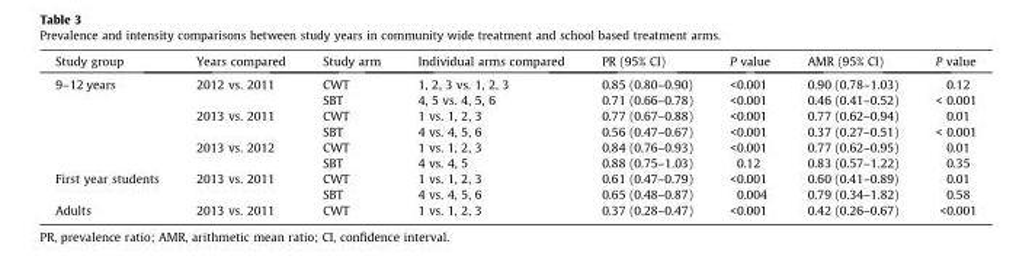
<table><thead><tr><td>Study group</td><td>Years compared</td><td>Study arm</td><td>Individual arms compared</td><td>PR (95% CI)</td><td>P value</td><td>AMR (95% CI)</td><td>P value</td></tr></thead><tbody><tr><td rowspan="6">9–12 years</td><td>2012 vs. 2011</td><td>CWT</td><td>1, 2, 3 vs. 1, 2, 3</td><td>0.85 (0.80–0.90)</td><td>&lt;0.001</td><td>0.90 (0.78–1.03)</td><td>0.12</td></tr><tr><td></td><td>SBT</td><td>4, 5 vs. 4, 5, 6</td><td>0.71 (0.66–0.78)</td><td>&lt;0.001</td><td>0.46 (0.41–0.52)</td><td>&lt; 0.001</td></tr><tr><td>2013 vs. 2011</td><td>CWT</td><td>1 vs. 1, 2, 3</td><td>0.77 (0.67–0.88)</td><td>&lt;0.001</td><td>0.77 (0.62–0.94)</td><td>0.01</td></tr><tr><td></td><td>SBT</td><td>4 vs. 4, 5, 6</td><td>0.56 (0.47–0.67)</td><td>&lt;0.001</td><td>0.37 (0.27–0.51)</td><td>&lt; 0.001</td></tr><tr><td>2013 vs. 2012</td><td>CWT</td><td>1 vs. 1, 2, 3</td><td>0.84 (0.76–0.93)</td><td>&lt;0.001</td><td>0.77 (0.62–0.95)</td><td>0.01</td></tr><tr><td></td><td>SBT</td><td>4 vs. 4, 5</td><td>0.88 (0.75–1.03)</td><td>0.12</td><td>0.83 (0.57–1.22)</td><td>0.35</td></tr><tr><td rowspan="2">First year students</td><td>2013 vs. 2011</td><td>CWT</td><td>1 vs. 1, 2, 3</td><td>0.61 (0.47–0.79)</td><td>&lt;0.001</td><td>0.60 (0.41–0.89)</td><td>0.01</td></tr><tr><td></td><td>SBT</td><td>4 vs. 4, 5, 6</td><td>0.65 (0.48–0.87)</td><td>0.004</td><td>0.79 (0.34–1.82)</td><td>0.58</td></tr><tr><td>Adults</td><td>2013 vs. 2011</td><td>CWT</td><td>1 vs. 1, 2, 3</td><td>0.37 (0.28–0.47)</td><td>&lt;0.001</td><td>0.42 (0.26–0.67)</td><td>&lt;0.001</td></tr></tbody></table>